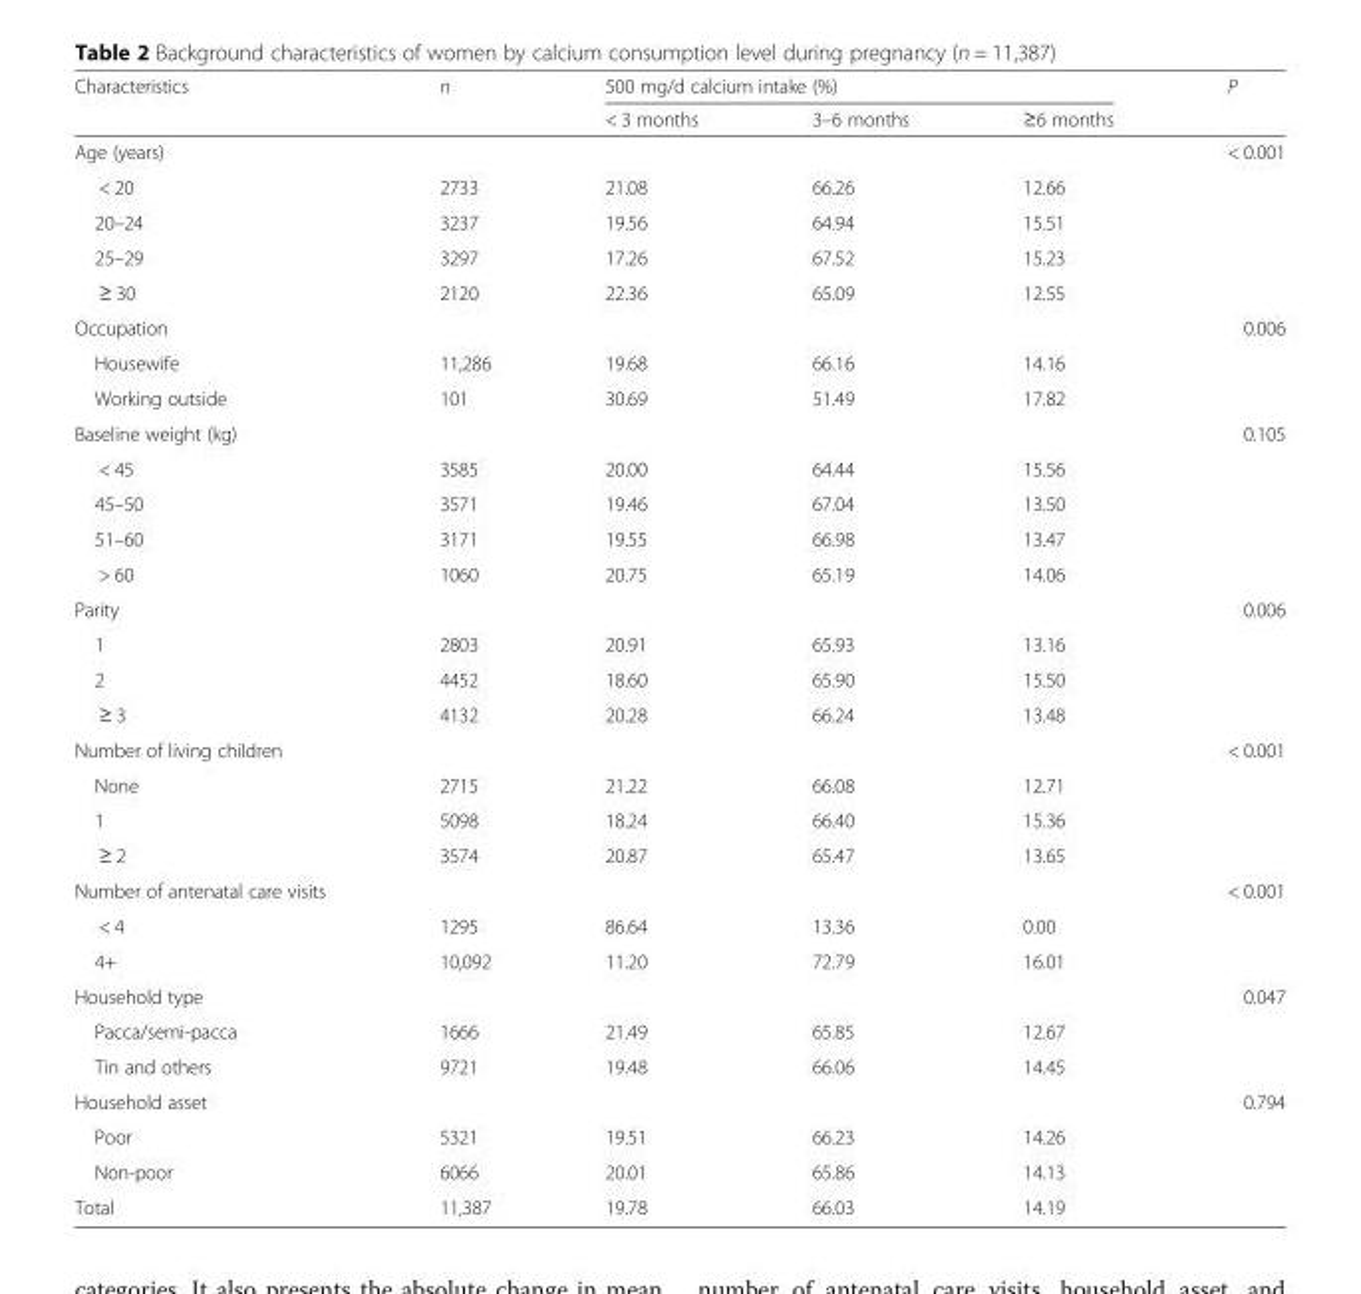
<table><thead><tr><td rowspan="2">Characteristics</td><td rowspan="2">n</td><td colspan="3">500 mg/d calcium intake (%)</td><td rowspan="2">P</td></tr><tr><td>&lt; 3 months</td><td>3–6 months</td><td>≥6 months</td></tr></thead><tbody><tr><td colspan="5">Age (years)</td><td rowspan="5">&lt; 0.001</td></tr><tr><td>&lt; 20</td><td>2733</td><td>21.08</td><td>66.26</td><td>12.66</td></tr><tr><td>20–24</td><td>3237</td><td>19.56</td><td>64.94</td><td>15.51</td></tr><tr><td>25–29</td><td>3297</td><td>17.26</td><td>67.52</td><td>15.23</td></tr><tr><td>≥ 30</td><td>2120</td><td>22.36</td><td>65.09</td><td>12.55</td></tr><tr><td colspan="5">Occupation</td><td rowspan="3">0.006</td></tr><tr><td>Housewife</td><td>11,286</td><td>19.68</td><td>66.16</td><td>14.16</td></tr><tr><td>Working outside</td><td>101</td><td>30.69</td><td>51.49</td><td>17.82</td></tr><tr><td colspan="5">Baseline weight (kg)</td><td rowspan="5">0.105</td></tr><tr><td>&lt; 45</td><td>3585</td><td>20.00</td><td>64.44</td><td>15.56</td></tr><tr><td>45–50</td><td>3571</td><td>19.46</td><td>67.04</td><td>13.50</td></tr><tr><td>51–60</td><td>3171</td><td>19.55</td><td>66.98</td><td>13.47</td></tr><tr><td>&gt; 60</td><td>1060</td><td>20.75</td><td>65.19</td><td>14.06</td></tr><tr><td colspan="5">Parity</td><td rowspan="4">0.006</td></tr><tr><td>1</td><td>2803</td><td>20.91</td><td>65.93</td><td>13.16</td></tr><tr><td>2</td><td>4452</td><td>18.60</td><td>65.90</td><td>15.50</td></tr><tr><td>≥ 3</td><td>4132</td><td>20.28</td><td>66.24</td><td>13.48</td></tr><tr><td colspan="5">Number of living children</td><td rowspan="4">&lt; 0.001</td></tr><tr><td>None</td><td>2715</td><td>21.22</td><td>66.08</td><td>12.71</td></tr><tr><td>1</td><td>5098</td><td>18.24</td><td>66.40</td><td>15.36</td></tr><tr><td>≥ 2</td><td>3574</td><td>20.87</td><td>65.47</td><td>13.65</td></tr><tr><td colspan="5">Number of antenatal care visits</td><td rowspan="3">&lt; 0.001</td></tr><tr><td>&lt; 4</td><td>1295</td><td>86.64</td><td>13.36</td><td>0.00</td></tr><tr><td>4+</td><td>10,092</td><td>11.20</td><td>72.79</td><td>16.01</td></tr><tr><td colspan="5">Household type</td><td rowspan="3">0.047</td></tr><tr><td>Pacca/semi-pacca</td><td>1666</td><td>21.49</td><td>65.85</td><td>12.67</td></tr><tr><td>Tin and others</td><td>9721</td><td>19.48</td><td>66.06</td><td>14.45</td></tr><tr><td colspan="5">Household asset</td><td rowspan="3">0.794</td></tr><tr><td>Poor</td><td>5321</td><td>19.51</td><td>66.23</td><td>14.26</td></tr><tr><td>Non-poor</td><td>6066</td><td>20.01</td><td>65.86</td><td>14.13</td></tr><tr><td>Total</td><td>11,387</td><td>19.78</td><td>66.03</td><td>14.19</td><td></td></tr></tbody></table>